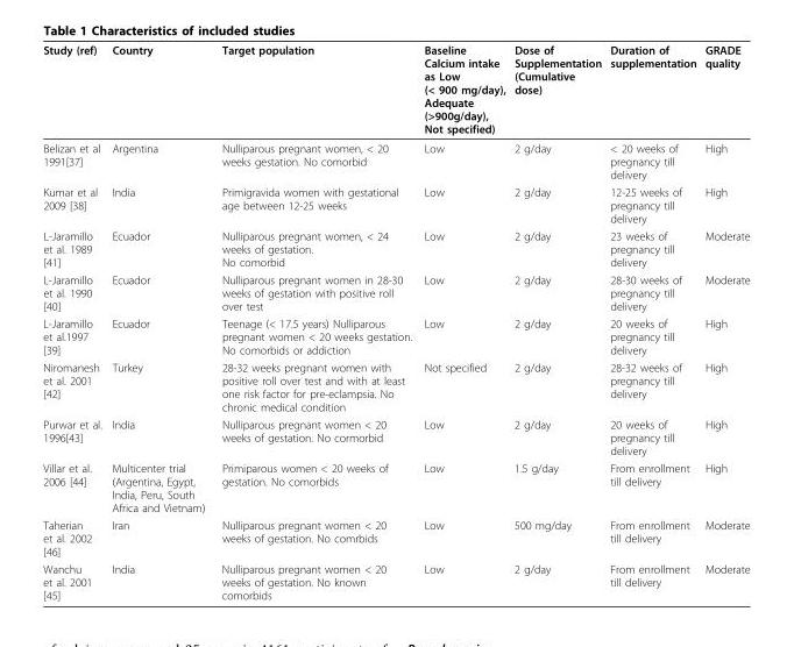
<table><thead><tr><td>Study (ref)</td><td>Country</td><td>Target population</td><td>Baseline Calcium intake as Low (&lt; 900 mg/day), Adequate (&gt;900g/day), Not specified)</td><td>Dose of Supplementation (Cumulative dose)</td><td>Duration of supplementation</td><td>GRADE quality</td></tr></thead><tbody><tr><td>Belizan et al 1991[37]</td><td>Argentina</td><td>Nulliparous pregnant women, &lt; 20 weeks gestation. No comorbid</td><td>Low</td><td>2 g/day</td><td>&lt; 20 weeks of pregnancy till delivery</td><td>High</td></tr><tr><td>Kumar et al 2009 [38]</td><td>India</td><td>Primigravida women with gestational age between 12-25 weeks</td><td>Low</td><td>2 g/day</td><td>12-25 weeks of pregnancy till delivery</td><td>High</td></tr><tr><td>L-Jaramillo et al. 1989 [41]</td><td>Ecuador</td><td>Nulliparous pregnant women, &lt; 24 weeks of gestation. No comorbid</td><td>Low</td><td>2 g/day</td><td>23 weeks of pregnancy till delivery</td><td>Moderate</td></tr><tr><td>L-Jaramillo et al. 1990 [40]</td><td>Ecuador</td><td>Nulliparous pregnant women in 28-30 weeks of gestation with positive roll over test</td><td>Low</td><td>2 g/day</td><td>28-30 weeks of pregnancy till delivery</td><td>Moderate</td></tr><tr><td>L-Jaramillo et al.1997 [39]</td><td>Ecuador</td><td>Teenage (&lt; 17.5 years) Nulliparous pregnant women &lt; 20 weeks gestation. No comorbids or addiction</td><td>Low</td><td>2 g/day</td><td>20 weeks of pregnancy till delivery</td><td>High</td></tr><tr><td>Niromanesh et al. 2001 [42]</td><td>Turkey</td><td>28-32 weeks pregnant women with positive roll over test and with at least one risk factor for pre-eclampsia. No chronic medical condition</td><td>Not specified</td><td>2 g/day</td><td>28-32 weeks of pregnancy till delivery</td><td>High</td></tr><tr><td>Purwar et al. 1996[43]</td><td>India</td><td>Nulliparous pregnant women &lt; 20 weeks of gestation. No cormorbid</td><td>Low</td><td>2 g/day</td><td>20 weeks of pregnancy till delivery</td><td>High</td></tr><tr><td>Villar et al. 2006 [44]</td><td>Multicenter trial (Argentina, Egypt, India, Peru, South Africa and Vietnam)</td><td>Primiparous women &lt; 20 weeks of gestation. No comorbids</td><td>Low</td><td>1.5 g/day</td><td>From enrollment till delivery</td><td>High</td></tr><tr><td>Taherian et al. 2002 [46]</td><td>Iran</td><td>Nulliparous pregnant women &lt; 20 weeks of gestation. No comrbids</td><td>Low</td><td>500 mg/day</td><td>From enrollment till delivery</td><td>Moderate</td></tr><tr><td>Wanchu et al. 2001 [45]</td><td>India</td><td>Nulliparous pregnant women &lt; 20 weeks of gestation. No known comorbids</td><td>Low</td><td>2 g/day</td><td>From enrollment till delivery</td><td>Moderate</td></tr></tbody></table>